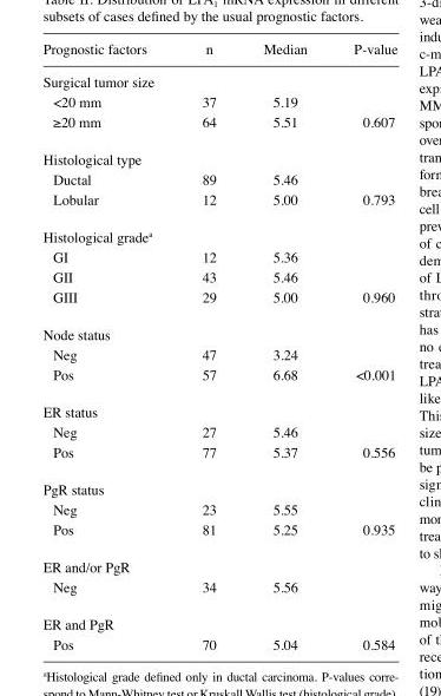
<table><thead><tr><td>Prognostic factors</td><td>n</td><td>Median</td><td>P-value</td></tr></thead><tbody><tr><td colspan="4">Surgical tumor size</td></tr><tr><td>&lt;20 mm</td><td>37</td><td>5.19</td><td></td></tr><tr><td>≥20 mm</td><td>64</td><td>5.51</td><td>0.607</td></tr><tr><td colspan="4">Histological type</td></tr><tr><td>Ductal</td><td>89</td><td>5.46</td><td></td></tr><tr><td>Lobular</td><td>12</td><td>5.00</td><td>0.793</td></tr><tr><td colspan="4">Histological grade<sup>a</sup></td></tr><tr><td>GI</td><td>12</td><td>5.36</td><td></td></tr><tr><td>GII</td><td>43</td><td>5.46</td><td></td></tr><tr><td>GIII</td><td>29</td><td>5.00</td><td>0.960</td></tr><tr><td colspan="4">Node status</td></tr><tr><td>Neg</td><td>47</td><td>3.24</td><td></td></tr><tr><td>Pos</td><td>57</td><td>6.68</td><td>&lt;0.001</td></tr><tr><td colspan="4">ER status</td></tr><tr><td>Neg</td><td>27</td><td>5.46</td><td></td></tr><tr><td>Pos</td><td>77</td><td>5.37</td><td>0.556</td></tr><tr><td colspan="4">PgR status</td></tr><tr><td>Neg</td><td>23</td><td>5.55</td><td></td></tr><tr><td>Pos</td><td>81</td><td>5.25</td><td>0.935</td></tr><tr><td colspan="4">ER and/or PgR</td></tr><tr><td>Neg</td><td>34</td><td>5.56</td><td></td></tr><tr><td colspan="4">ER and PgR</td></tr><tr><td>Pos</td><td>70</td><td>5.04</td><td>0.584</td></tr></tbody></table>